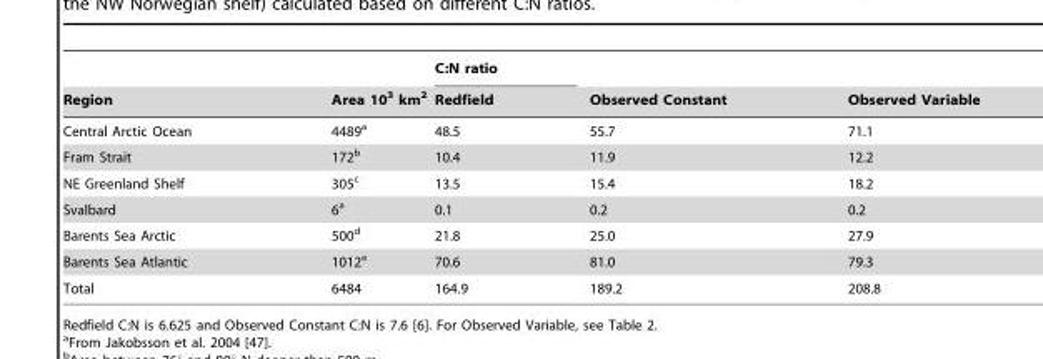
<table><thead><tr><td rowspan="2">Region</td><td rowspan="2">Area 10<sup>3</sup> km<sup>2</sup></td><td rowspan="2">C:N ratio Redfield</td><td rowspan="2">Observed Constant</td><td rowspan="2">Observed Variable</td></tr><tr></tr></thead><tbody><tr><td>Central Arctic Ocean</td><td>4489<sup>a</sup></td><td>48.5</td><td>55.7</td><td>71.1</td></tr><tr><td>Fram Strait</td><td>172<sup>b</sup></td><td>10.4</td><td>11.9</td><td>12.2</td></tr><tr><td>NE Greenland Shelf</td><td>305<sup>c</sup></td><td>13.5</td><td>15.4</td><td>18.2</td></tr><tr><td>Svalbard</td><td>6<sup>a</sup></td><td>0.1</td><td>0.2</td><td>0.2</td></tr><tr><td>Barents Sea Arctic</td><td>500<sup>d</sup></td><td>21.8</td><td>25.0</td><td>27.9</td></tr><tr><td>Barents Sea Atlantic</td><td>1012<sup>e</sup></td><td>70.6</td><td>81.0</td><td>79.3</td></tr><tr><td>Total</td><td>6484</td><td>164.9</td><td>189.2</td><td>208.8</td></tr></tbody></table>